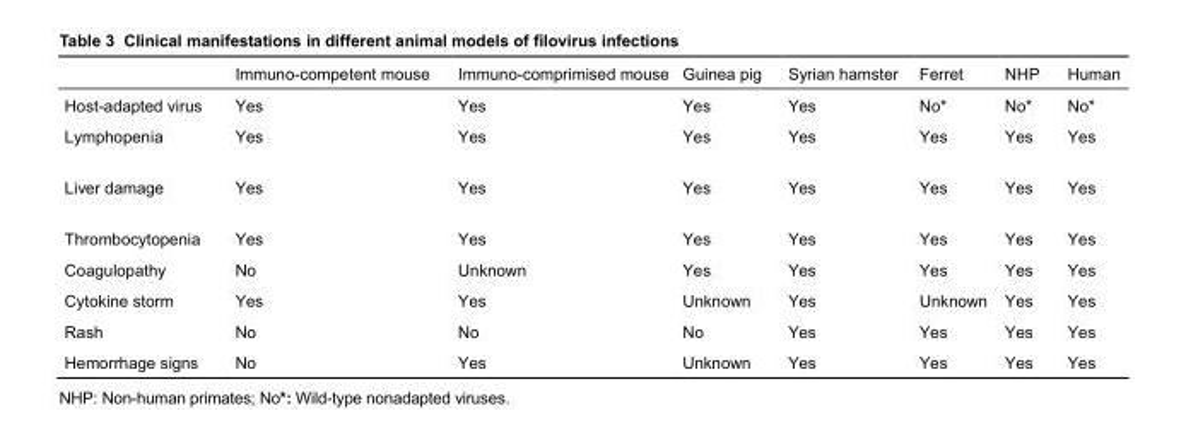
<table><thead><tr><td></td><td>Immuno-competent mouse</td><td>Immuno-comprimised mouse</td><td>Guinea pig</td><td>Syrian hamster</td><td>Ferret</td><td>NHP</td><td>Human</td></tr></thead><tbody><tr><td>Host-adapted virus</td><td>Yes</td><td>Yes</td><td>Yes</td><td>Yes</td><td>No*</td><td>No*</td><td>No*</td></tr><tr><td>Lymphopenia</td><td>Yes</td><td>Yes</td><td>Yes</td><td>Yes</td><td>Yes</td><td>Yes</td><td>Yes</td></tr><tr><td>Liver damage</td><td>Yes</td><td>Yes</td><td>Yes</td><td>Yes</td><td>Yes</td><td>Yes</td><td>Yes</td></tr><tr><td>Thrombocytopenia</td><td>Yes</td><td>Yes</td><td>Yes</td><td>Yes</td><td>Yes</td><td>Yes</td><td>Yes</td></tr><tr><td>Coagulopathy</td><td>No</td><td>Unknown</td><td>Yes</td><td>Yes</td><td>Yes</td><td>Yes</td><td>Yes</td></tr><tr><td>Cytokine storm</td><td>Yes</td><td>Yes</td><td>Unknown</td><td>Yes</td><td>Unknown</td><td>Yes</td><td>Yes</td></tr><tr><td>Rash</td><td>No</td><td>No</td><td>No</td><td>Yes</td><td>Yes</td><td>Yes</td><td>Yes</td></tr><tr><td>Hemorrhage signs</td><td>No</td><td>Yes</td><td>Unknown</td><td>Yes</td><td>Yes</td><td>Yes</td><td>Yes</td></tr></tbody></table>